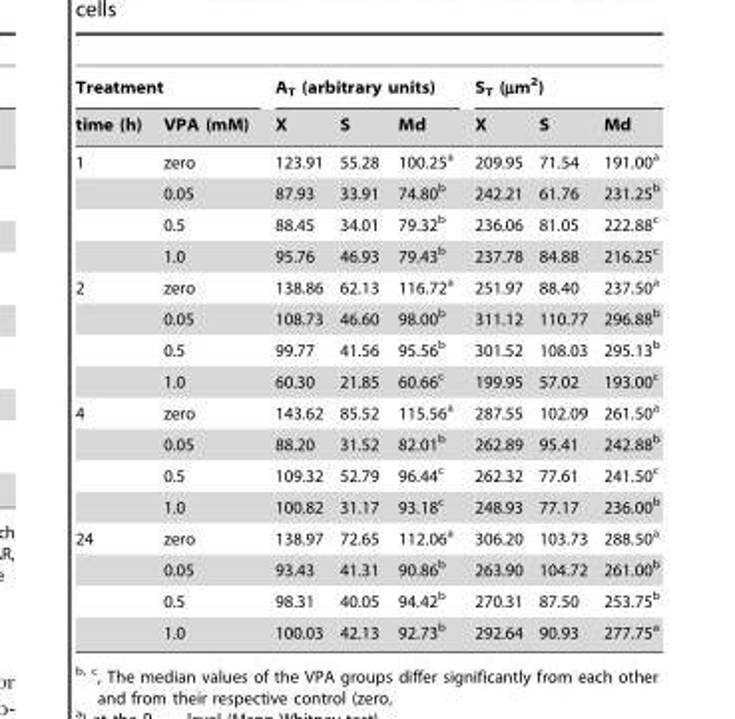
<table><thead><tr><td colspan="2">Treatment</td><td colspan="3">A<sub>T</sub> (arbitrary units)</td><td colspan="3">S<sub>T</sub> (µm<sup>2</sup>)</td></tr><tr><td>time (h)</td><td>VPA (mM)</td><td>X</td><td>S</td><td>Md</td><td>X</td><td>S</td><td>Md</td></tr></thead><tbody><tr><td rowspan="4">1</td><td>zero</td><td>123.91</td><td>55.28</td><td>100.25<sup>a</sup></td><td>209.95</td><td>71.54</td><td>191.00<sup>a</sup></td></tr><tr><td>0.05</td><td>87.93</td><td>33.91</td><td>74.80<sup>b</sup></td><td>242.21</td><td>61.76</td><td>231.25<sup>b</sup></td></tr><tr><td>0.5</td><td>88.45</td><td>34.01</td><td>79.32<sup>b</sup></td><td>236.06</td><td>81.05</td><td>222.88<sup>c</sup></td></tr><tr><td>1.0</td><td>95.76</td><td>46.93</td><td>79.43<sup>b</sup></td><td>237.78</td><td>84.88</td><td>216.25<sup>c</sup></td></tr><tr><td rowspan="4">2</td><td>zero</td><td>138.86</td><td>62.13</td><td>116.72<sup>a</sup></td><td>251.97</td><td>88.40</td><td>237.50<sup>a</sup></td></tr><tr><td>0.05</td><td>108.73</td><td>46.60</td><td>98.00<sup>b</sup></td><td>311.12</td><td>110.77</td><td>296.88<sup>b</sup></td></tr><tr><td>0.5</td><td>99.77</td><td>41.56</td><td>95.56<sup>b</sup></td><td>301.52</td><td>108.03</td><td>295.13<sup>b</sup></td></tr><tr><td>1.0</td><td>60.30</td><td>21.85</td><td>60.66<sup>c</sup></td><td>199.95</td><td>57.02</td><td>193.00<sup>c</sup></td></tr><tr><td rowspan="4">4</td><td>zero</td><td>143.62</td><td>85.52</td><td>115.56<sup>a</sup></td><td>287.55</td><td>102.09</td><td>261.50<sup>a</sup></td></tr><tr><td>0.05</td><td>88.20</td><td>31.52</td><td>82.01<sup>b</sup></td><td>262.89</td><td>95.41</td><td>242.88<sup>b</sup></td></tr><tr><td>0.5</td><td>109.32</td><td>52.79</td><td>96.44<sup>c</sup></td><td>262.32</td><td>77.61</td><td>241.50<sup>c</sup></td></tr><tr><td>1.0</td><td>100.82</td><td>31.17</td><td>93.18<sup>c</sup></td><td>248.93</td><td>77.17</td><td>236.00<sup>b</sup></td></tr><tr><td rowspan="4">24</td><td>zero</td><td>138.97</td><td>72.65</td><td>112.06<sup>a</sup></td><td>306.20</td><td>103.73</td><td>288.50<sup>a</sup></td></tr><tr><td>0.05</td><td>93.43</td><td>41.31</td><td>90.86<sup>b</sup></td><td>263.90</td><td>104.72</td><td>261.00<sup>b</sup></td></tr><tr><td>0.5</td><td>98.31</td><td>40.05</td><td>94.42<sup>b</sup></td><td>270.31</td><td>87.50</td><td>253.75<sup>b</sup></td></tr><tr><td>1.0</td><td>100.03</td><td>42.13</td><td>92.73<sup>b</sup></td><td>292.64</td><td>90.93</td><td>277.75<sup>a</sup></td></tr></tbody></table>